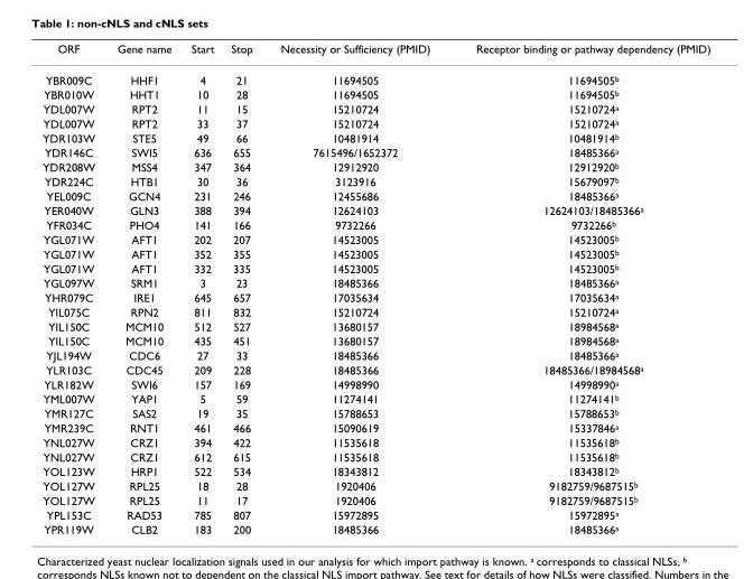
<table><thead><tr><td>ORF</td><td>Gene name</td><td>Start</td><td>Stop</td><td>Necessity or Sufficiency (PMID)</td><td>Receptor binding or pathway dependency (PMID)</td></tr></thead><tbody><tr><td>YBR009C</td><td>HHF1</td><td>4</td><td>21</td><td>11694505</td><td>11694505<sup>b</sup></td></tr><tr><td>YBR010W</td><td>HHT1</td><td>10</td><td>28</td><td>11694505</td><td>11694505<sup>b</sup></td></tr><tr><td>YDL007W</td><td>RPT2</td><td>11</td><td>15</td><td>15210724</td><td>15210724<sup>a</sup></td></tr><tr><td>YDL007W</td><td>RPT2</td><td>33</td><td>37</td><td>15210724</td><td>15210724<sup>a</sup></td></tr><tr><td>YDR103W</td><td>STE5</td><td>49</td><td>66</td><td>10481914</td><td>10481914<sup>b</sup></td></tr><tr><td>YDR146C</td><td>SWI5</td><td>636</td><td>655</td><td>7615496/1652372</td><td>18485366<sup>a</sup></td></tr><tr><td>YDR208W</td><td>MSS4</td><td>347</td><td>364</td><td>12912920</td><td>12912920<sup>b</sup></td></tr><tr><td>YDR224C</td><td>HTB1</td><td>30</td><td>36</td><td>3123916</td><td>15679097<sup>b</sup></td></tr><tr><td>YEL009C</td><td>GCN4</td><td>231</td><td>246</td><td>12455686</td><td>18485366<sup>a</sup></td></tr><tr><td>YER040W</td><td>GLN3</td><td>388</td><td>394</td><td>12624103</td><td>12624103/18485366<sup>a</sup></td></tr><tr><td>YFR034C</td><td>PHO4</td><td>141</td><td>166</td><td>9732266</td><td>9732266<sup>b</sup></td></tr><tr><td>YGL071W</td><td>AFT1</td><td>202</td><td>207</td><td>14523005</td><td>14523005<sup>b</sup></td></tr><tr><td>YGL071W</td><td>AFT1</td><td>352</td><td>355</td><td>14523005</td><td>14523005<sup>b</sup></td></tr><tr><td>YGL071W</td><td>AFT1</td><td>332</td><td>335</td><td>14523005</td><td>14523005<sup>b</sup></td></tr><tr><td>YGL097W</td><td>SRM1</td><td>3</td><td>23</td><td>18485366</td><td>18485366<sup>a</sup></td></tr><tr><td>YHR079C</td><td>IRE1</td><td>645</td><td>657</td><td>17035634</td><td>17035634<sup>a</sup></td></tr><tr><td>YIL075C</td><td>RPN2</td><td>811</td><td>832</td><td>15210724</td><td>15210724<sup>a</sup></td></tr><tr><td>YIL150C</td><td>MCM10</td><td>512</td><td>527</td><td>13680157</td><td>18984568<sup>a</sup></td></tr><tr><td>YIL150C</td><td>MCM10</td><td>435</td><td>451</td><td>13680157</td><td>18984568<sup>a</sup></td></tr><tr><td>YJL194W</td><td>CDC6</td><td>27</td><td>33</td><td>18485366</td><td>18485366<sup>a</sup></td></tr><tr><td>YLR103C</td><td>CDC45</td><td>209</td><td>228</td><td>18485366</td><td>18485366/18984568<sup>a</sup></td></tr><tr><td>YLR182W</td><td>SWI6</td><td>157</td><td>169</td><td>14998990</td><td>14998990<sup>a</sup></td></tr><tr><td>YML007W</td><td>YAP1</td><td>5</td><td>59</td><td>11274141</td><td>11274141<sup>b</sup></td></tr><tr><td>YMR127C</td><td>SAS2</td><td>19</td><td>35</td><td>15788653</td><td>15788653<sup>b</sup></td></tr><tr><td>YMR239C</td><td>RNT1</td><td>461</td><td>466</td><td>15090619</td><td>15337846<sup>a</sup></td></tr><tr><td>YNL027W</td><td>CRZ1</td><td>394</td><td>422</td><td>11535618</td><td>11535618<sup>b</sup></td></tr><tr><td>YNL027W</td><td>CRZ1</td><td>612</td><td>615</td><td>11535618</td><td>11535618<sup>b</sup></td></tr><tr><td>YOL123W</td><td>HRP1</td><td>522</td><td>534</td><td>18343812</td><td>18343812<sup>b</sup></td></tr><tr><td>YOL127W</td><td>RPL25</td><td>18</td><td>28</td><td>1920406</td><td>9182759/9687515<sup>b</sup></td></tr><tr><td>YOL127W</td><td>RPL25</td><td>11</td><td>17</td><td>1920406</td><td>9182759/9687515<sup>b</sup></td></tr><tr><td>YPL153C</td><td>RAD53</td><td>785</td><td>807</td><td>15972895</td><td>15972895<sup>a</sup></td></tr><tr><td>YPR119W</td><td>CLB2</td><td>183</td><td>200</td><td>18485366</td><td>18485366<sup>a</sup></td></tr></tbody></table>